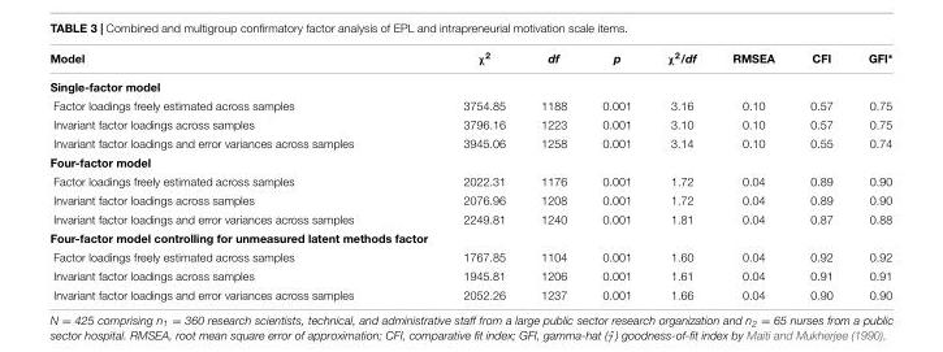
<table><thead><tr><td>Model</td><td>χ<sup>2</sup></td><td>df</td><td>p</td><td>χ<sup>2</sup>/df</td><td>RMSEA</td><td>CFI</td><td>GFI∗</td></tr></thead><tbody><tr><td colspan="8">Single-factor model</td></tr><tr><td>Factor loadings freely estimated across samples</td><td>3754.85</td><td>1188</td><td>0.001</td><td>3.16</td><td>0.10</td><td>0.57</td><td>0.75</td></tr><tr><td>Invariant factor loadings across samples</td><td>3796.16</td><td>1223</td><td>0.001</td><td>3.10</td><td>0.10</td><td>0.57</td><td>0.75</td></tr><tr><td>Invariant factor loadings and error variances across samples</td><td>3945.06</td><td>1258</td><td>0.001</td><td>3.14</td><td>0.10</td><td>0.55</td><td>0.74</td></tr><tr><td colspan="8">Four-factor model</td></tr><tr><td>Factor loadings freely estimated across samples</td><td>2022.31</td><td>1176</td><td>0.001</td><td>1.72</td><td>0.04</td><td>0.89</td><td>0.90</td></tr><tr><td>Invariant factor loadings across samples</td><td>2076.96</td><td>1208</td><td>0.001</td><td>1.72</td><td>0.04</td><td>0.89</td><td>0.90</td></tr><tr><td>Invariant factor loadings and error variances across samples</td><td>2249.81</td><td>1240</td><td>0.001</td><td>1.81</td><td>0.04</td><td>0.87</td><td>0.88</td></tr><tr><td colspan="8">Four-factor model controlling for unmeasured latent methods factor</td></tr><tr><td>Factor loadings freely estimated across samples</td><td>1767.85</td><td>1104</td><td>0.001</td><td>1.60</td><td>0.04</td><td>0.92</td><td>0.92</td></tr><tr><td>Invariant factor loadings across samples</td><td>1945.81</td><td>1206</td><td>0.001</td><td>1.61</td><td>0.04</td><td>0.91</td><td>0.91</td></tr><tr><td>Invariant factor loadings and error variances across samples</td><td>2052.26</td><td>1237</td><td>0.001</td><td>1.66</td><td>0.04</td><td>0.90</td><td>0.90</td></tr></tbody></table>